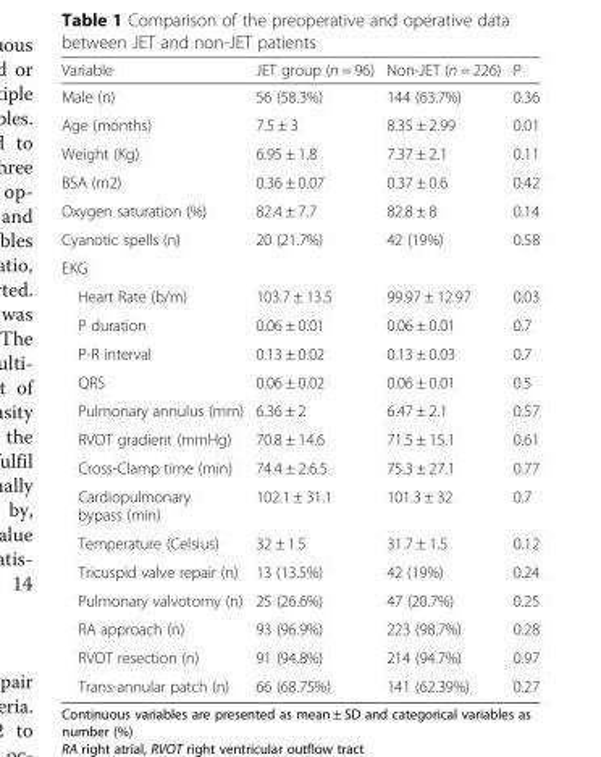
<table><thead><tr><td>Variable</td><td>JET group (n = 96)</td><td>Non-JET (n = 226)</td><td>P</td></tr></thead><tbody><tr><td>Male (n)</td><td>56 (58.3%)</td><td>144 (63.7%)</td><td>0.36</td></tr><tr><td>Age (months)</td><td>7.5 ± 3</td><td>8.35 ± 2.99</td><td>0.01</td></tr><tr><td>Weight (Kg)</td><td>6.95 ± 1.8</td><td>7.37 ± 2.1</td><td>0.11</td></tr><tr><td>BSA (m2)</td><td>0.36 ± 0.07</td><td>0.37 ± 0.6</td><td>0.42</td></tr><tr><td>Oxygen saturation (%)</td><td>82.4 ± 7.7</td><td>82.8 ± 8</td><td>0.14</td></tr><tr><td>Cyanotic spells (n)</td><td>20 (21.7%)</td><td>42 (19%)</td><td>0.58</td></tr><tr><td colspan="4">EKG</td></tr><tr><td>Heart Rate (b/m)</td><td>103.7 ± 13.5</td><td>99.97 ± 12.97</td><td>0.03</td></tr><tr><td>P duration</td><td>0.06 ± 0.01</td><td>0.06 ± 0.01</td><td>0.7</td></tr><tr><td>P-R interval</td><td>0.13 ± 0.02</td><td>0.13 ± 0.03</td><td>0.7</td></tr><tr><td>QRS</td><td>0.06 ± 0.02</td><td>0.06 ± 0.01</td><td>0.5</td></tr><tr><td>Pulmonary annulus (mm)</td><td>6.36 ± 2</td><td>6.47 ± 2.1</td><td>0.57</td></tr><tr><td>RVOT gradient (mmHg)</td><td>70.8 ± 14.6</td><td>71.5 ± 15.1</td><td>0.61</td></tr><tr><td>Cross-Clamp time (min)</td><td>74.4 ± 2.6.5</td><td>75.3 ± 27.1</td><td>0.77</td></tr><tr><td>Cardiopulmonary bypass (min)</td><td>102.1 ± 31.1</td><td>101.3 ± 32</td><td>0.7</td></tr><tr><td>Temperature (Celsius)</td><td>32 ± 1.5</td><td>31.7 ± 1.5</td><td>0.12</td></tr><tr><td>Tricuspid valve repair (n)</td><td>13 (13.5%)</td><td>42 (19%)</td><td>0.24</td></tr><tr><td>Pulmonary valvotomy (n)</td><td>25 (26.6%)</td><td>47 (20.7%)</td><td>0.25</td></tr><tr><td>RA approach (n)</td><td>93 (96.9%)</td><td>223 (98.7%)</td><td>0.28</td></tr><tr><td>RVOT resection (n)</td><td>91 (94.8%)</td><td>214 (94.7%)</td><td>0.97</td></tr><tr><td>Trans-annular patch (n)</td><td>66 (68.75%)</td><td>141 (62.39%)</td><td>0.27</td></tr></tbody></table>